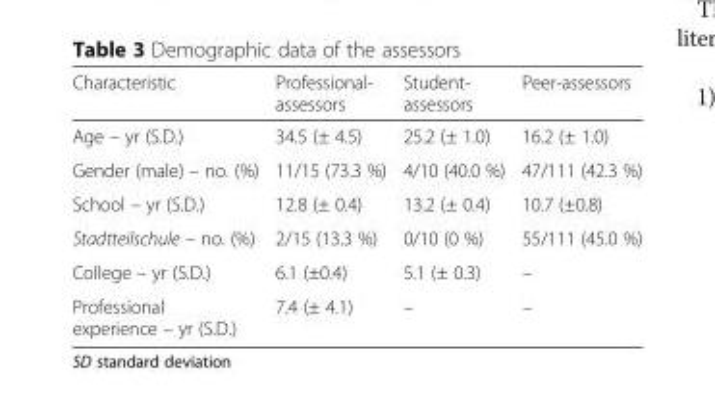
<table><thead><tr><td>Characteristic</td><td>Professional- assessors</td><td>Student- assessors</td><td>Peer-assessors</td></tr></thead><tbody><tr><td>Age – yr (S.D.)</td><td>34.5 (± 4.5)</td><td>25.2 (± 1.0)</td><td>16.2 (± 1.0)</td></tr><tr><td>Gender (male) – no. (%)</td><td>11/15 (73.3 %)</td><td>4/10 (40.0 %)</td><td>47/111 (42.3 %)</td></tr><tr><td>School – yr (S.D.)</td><td>12.8 (± 0.4)</td><td>13.2 (± 0.4)</td><td>10.7 (±0.8)</td></tr><tr><td>Stadtteilschule – no. (%)</td><td>2/15 (13.3 %)</td><td>0/10 (0 %)</td><td>55/111 (45.0 %)</td></tr><tr><td>College – yr (S.D.)</td><td>6.1 (±0.4)</td><td>5.1 (± 0.3)</td><td>–</td></tr><tr><td>Professional experience – yr (S.D.)</td><td>7.4 (± 4.1)</td><td>–</td><td>–</td></tr></tbody></table>